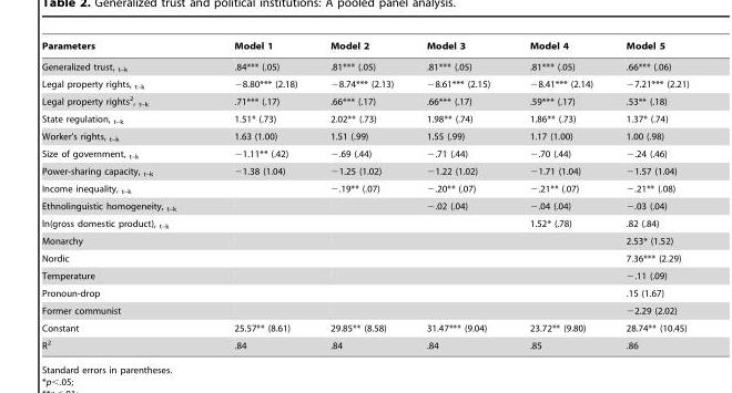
<table><thead><tr><td>Parameters</td><td>Model 1</td><td>Model 2</td><td>Model 3</td><td>Model 4</td><td>Model 5</td></tr></thead><tbody><tr><td>Generalized trust, <sub>t–k</sub></td><td>.84*** (.05)</td><td>.81*** (.05)</td><td>.81*** (.05)</td><td>.81*** (.05)</td><td>.66*** (.06)</td></tr><tr><td>Legal property rights, <sub>t–k</sub></td><td>−8.80*** (2.18)</td><td>−8.74*** (2.13)</td><td>−8.61*** (2.15)</td><td>−8.41*** (2.14)</td><td>−7.21*** (2.21)</td></tr><tr><td>Legal property rights<sup>2</sup>, <sub>t–k</sub></td><td>.71*** (.17)</td><td>.66*** (.17)</td><td>.66*** (.17)</td><td>.59*** (.17)</td><td>.53** (.18)</td></tr><tr><td>State regulation, <sub>t–k</sub></td><td>1.51* (.73)</td><td>2.02** (.73)</td><td>1.98** (.74)</td><td>1.86** (.73)</td><td>1.37* (.74)</td></tr><tr><td>Worker’s rights, <sub>t–k</sub></td><td>1.63 (1.00)</td><td>1.51 (.99)</td><td>1.55 (.99)</td><td>1.17 (1.00)</td><td>1.00 (.98)</td></tr><tr><td>Size of government, <sub>t–k</sub></td><td>−1.11** (.42)</td><td>−.69 (.44)</td><td>−.71 (.44)</td><td>−.70 (.44)</td><td>−.24 (.46)</td></tr><tr><td>Power-sharing capacity, <sub>t–k</sub></td><td>−1.38 (1.04)</td><td>−1.25 (1.02)</td><td>−1.22 (1.02)</td><td>−1.71 (1.04)</td><td>−1.57 (1.04)</td></tr><tr><td>Income inequality, <sub>t–k</sub></td><td></td><td>−.19** (.07)</td><td>−.20** (.07)</td><td>−.21** (.07)</td><td>−.21** (.08)</td></tr><tr><td>Ethnolinguistic homogeneity, <sub>t–k</sub></td><td></td><td></td><td>−.02 (.04)</td><td>−.04 (.04)</td><td>−.03 (.04)</td></tr><tr><td>ln(gross domestic product), <sub>t–k</sub></td><td></td><td></td><td></td><td>1.52* (.78)</td><td>.82 (.84)</td></tr><tr><td>Monarchy</td><td></td><td></td><td></td><td></td><td>2.53* (1.52)</td></tr><tr><td>Nordic</td><td></td><td></td><td></td><td></td><td>7.36*** (2.29)</td></tr><tr><td>Temperature</td><td></td><td></td><td></td><td></td><td>−.11 (.09)</td></tr><tr><td>Pronoun-drop</td><td></td><td></td><td></td><td></td><td>.15 (1.67)</td></tr><tr><td>Former communist</td><td></td><td></td><td></td><td></td><td>−2.29 (2.02)</td></tr><tr><td>Constant</td><td>25.57** (8.61)</td><td>29.85** (8.58)</td><td>31.47*** (9.04)</td><td>23.72** (9.80)</td><td>28.74** (10.45)</td></tr><tr><td>R<sup>2</sup></td><td>.84</td><td>.84</td><td>.84</td><td>.85</td><td>.86</td></tr></tbody></table>